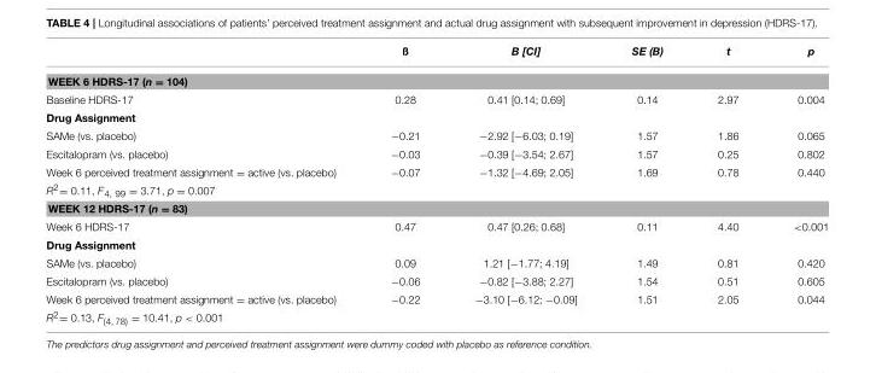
<table><thead><tr><td></td><td>ß</td><td>B [CI]</td><td>SE (B)</td><td>t</td><td>p</td></tr></thead><tbody><tr><td colspan="6">WEEK 6 HDRS-17 (n = 104)</td></tr><tr><td>Baseline HDRS-17</td><td>0.28</td><td>0.41 [0.14; 0.69]</td><td>0.14</td><td>2.97</td><td>0.004</td></tr><tr><td colspan="6">Drug Assignment</td></tr><tr><td>SAMe (vs. placebo)</td><td>−0.21</td><td>−2.92 [−6.03; 0.19]</td><td>1.57</td><td>1.86</td><td>0.065</td></tr><tr><td>Escitalopram (vs. placebo)</td><td>−0.03</td><td>−0.39 [−3.54; 2.67]</td><td>1.57</td><td>0.25</td><td>0.802</td></tr><tr><td>Week 6 perceived treatment assignment = active (vs. placebo)</td><td>−0.07</td><td>−1.32 [−4.69; 2.05]</td><td>1.69</td><td>0.78</td><td>0.440</td></tr><tr><td colspan="6">R<sup>2</sup>= 0.11, F<sub>4, 99</sub> = 3.71, p = 0.007</td></tr><tr><td colspan="6">WEEK 12 HDRS-17 (n = 83)</td></tr><tr><td>Week 6 HDRS-17</td><td>0.47</td><td>0.47 [0.26; 0.68]</td><td>0.11</td><td>4.40</td><td>&lt;0.001</td></tr><tr><td colspan="6">Drug Assignment</td></tr><tr><td>SAMe (vs. placebo)</td><td>0.09</td><td>1.21 [−1.77; 4.19]</td><td>1.49</td><td>0.81</td><td>0.420</td></tr><tr><td>Escitalopram (vs. placebo)</td><td>−0.06</td><td>−0.82 [−3.88; 2.27]</td><td>1.54</td><td>0.51</td><td>0.605</td></tr><tr><td>Week 6 perceived treatment assignment = active (vs. placebo)</td><td>−0.22</td><td>−3.10 [−6.12; −0.09]</td><td>1.51</td><td>2.05</td><td>0.044</td></tr><tr><td>R<sup>2</sup>= 0.13, F<sub>(4, 78)</sub> = 10.41, p &lt; 0.001</td><td></td><td></td><td></td><td></td><td></td></tr></tbody></table>